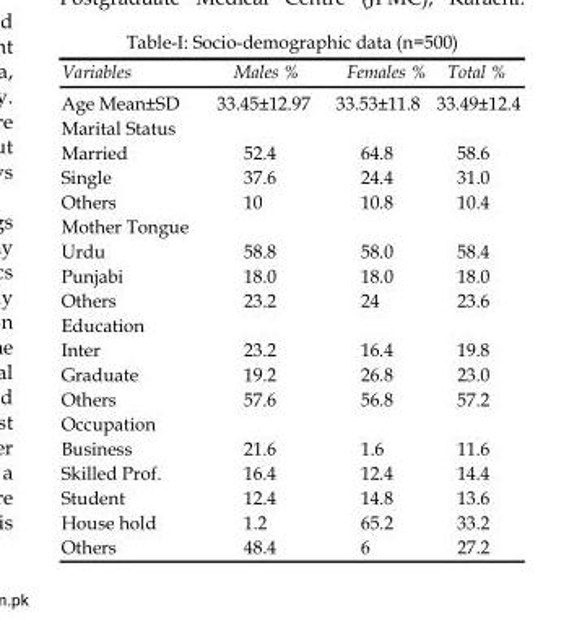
<table><thead><tr><td>Variables</td><td>Males %</td><td>Females %</td><td>Total %</td></tr></thead><tbody><tr><td>Age Mean±SD</td><td>33.45±12.97</td><td>33.53±11.8</td><td>33.49±12.4</td></tr><tr><td colspan="4">Marital Status</td></tr><tr><td>Married</td><td>52.4</td><td>64.8</td><td>58.6</td></tr><tr><td>Single</td><td>37.6</td><td>24.4</td><td>31.0</td></tr><tr><td>Others</td><td>10</td><td>10.8</td><td>10.4</td></tr><tr><td colspan="4">Mother Tongue</td></tr><tr><td>Urdu</td><td>58.8</td><td>58.0</td><td>58.4</td></tr><tr><td>Punjabi</td><td>18.0</td><td>18.0</td><td>18.0</td></tr><tr><td>Others</td><td>23.2</td><td>24</td><td>23.6</td></tr><tr><td colspan="4">Education</td></tr><tr><td>Inter</td><td>23.2</td><td>16.4</td><td>19.8</td></tr><tr><td>Graduate</td><td>19.2</td><td>26.8</td><td>23.0</td></tr><tr><td>Others</td><td>57.6</td><td>56.8</td><td>57.2</td></tr><tr><td colspan="4">Occupation</td></tr><tr><td>Business</td><td>21.6</td><td>1.6</td><td>11.6</td></tr><tr><td>Skilled Prof.</td><td>16.4</td><td>12.4</td><td>14.4</td></tr><tr><td>Student</td><td>12.4</td><td>14.8</td><td>13.6</td></tr><tr><td>House hold</td><td>1.2</td><td>65.2</td><td>33.2</td></tr><tr><td>Others</td><td>48.4</td><td>6</td><td>27.2</td></tr></tbody></table>